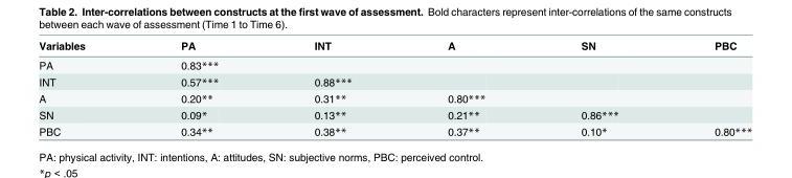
<table><thead><tr><td>Variables</td><td>PA</td><td>INT</td><td>A</td><td>SN</td><td>PBC</td></tr></thead><tbody><tr><td>PA</td><td>0.83***</td><td></td><td></td><td></td><td></td></tr><tr><td>INT</td><td>0.57***</td><td>0.88***</td><td></td><td></td><td></td></tr><tr><td>A</td><td>0.20**</td><td>0.31**</td><td>0.80***</td><td></td><td></td></tr><tr><td>SN</td><td>0.09*</td><td>0.13**</td><td>0.21**</td><td>0.86***</td><td></td></tr><tr><td>PBC</td><td>0.34**</td><td>0.38**</td><td>0.37**</td><td>0.10*</td><td>0.80***</td></tr></tbody></table>